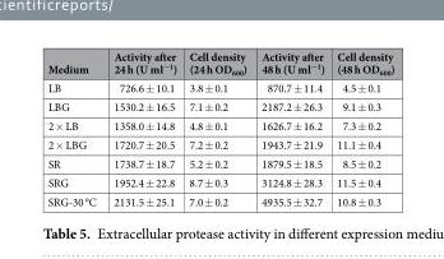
<table><thead><tr><td>Medium</td><td>Activity after 24 h (U ml<sup>−1</sup>)</td><td>Cell density (24 h OD<sub>600</sub>)</td><td>Activity after 48 h (U ml<sup>−1</sup>)</td><td>Cell density (48 h OD<sub>600</sub>)</td></tr></thead><tbody><tr><td>LB</td><td>726.6 ± 10.1</td><td>3.8 ± 0.1</td><td>870.7 ± 11.4</td><td>4.5 ± 0.1</td></tr><tr><td>LBG</td><td>1530.2 ± 16.5</td><td>7.1 ± 0.2</td><td>2187.2 ± 26.3</td><td>9.1 ± 0.3</td></tr><tr><td>2 × LB</td><td>1358.0 ± 14.8</td><td>4.8 ± 0.1</td><td>1626.7 ± 16.2</td><td>7.3 ± 0.2</td></tr><tr><td>2 × LBG</td><td>1720.7 ± 20.5</td><td>7.2 ± 0.2</td><td>1943.7 ± 21.9</td><td>11.1 ± 0.4</td></tr><tr><td>SR</td><td>1738.7 ± 18.7</td><td>5.2 ± 0.2</td><td>1879.5 ± 18.5</td><td>8.5 ± 0.2</td></tr><tr><td>SRG</td><td>1952.4 ± 22.8</td><td>8.7 ± 0.3</td><td>3124.8 ± 28.3</td><td>11.5 ± 0.4</td></tr><tr><td>SRG-30 °C</td><td>2131.5 ± 25.1</td><td>7.0 ± 0.2</td><td>4935.5 ± 32.7</td><td>10.8 ± 0.3</td></tr></tbody></table>